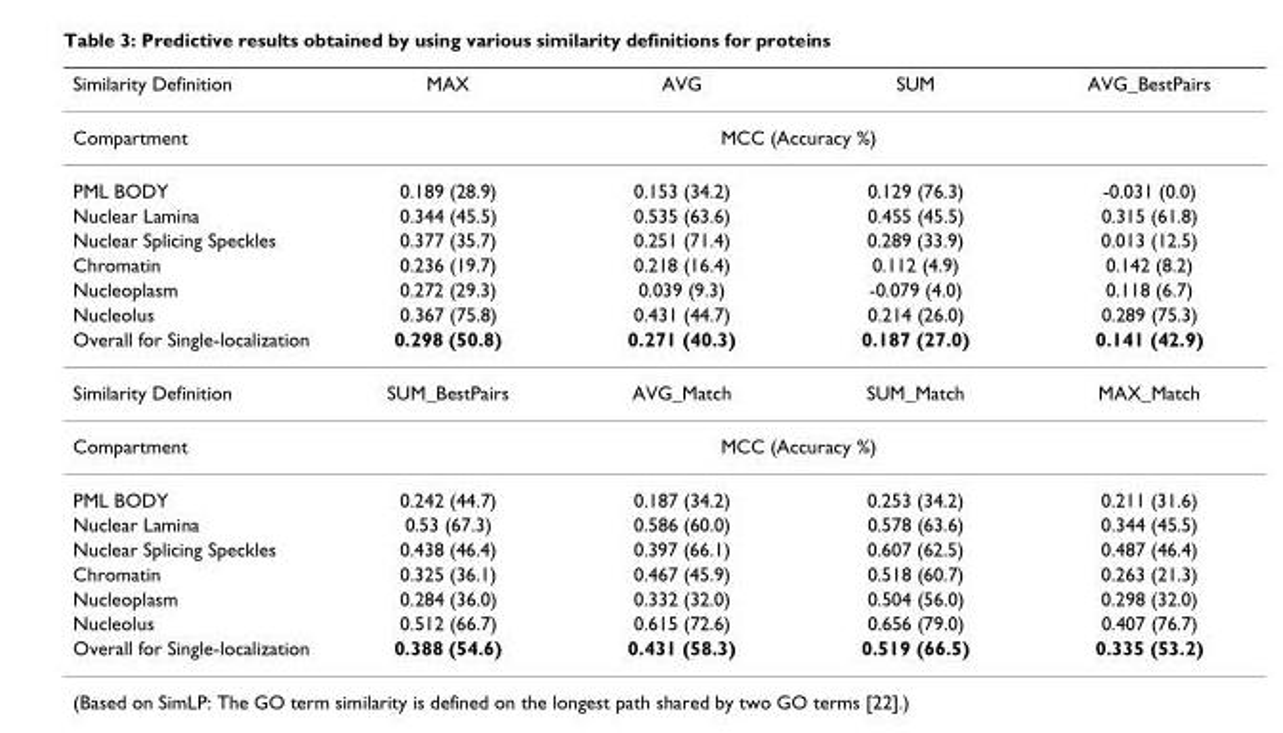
<table><thead><tr><td>Similarity Definition</td><td>MAX</td><td>AVG</td><td>SUM</td><td>AVG_BestPairs</td></tr></thead><tbody><tr><td>Compartment</td><td colspan="4">MCC (Accuracy %)</td></tr><tr><td>PML BODY</td><td>0.189 (28.9)</td><td>0.153 (34.2)</td><td>0.129 (76.3)</td><td>-0.031 (0.0)</td></tr><tr><td>Nuclear Lamina</td><td>0.344 (45.5)</td><td>0.535 (63.6)</td><td>0.455 (45.5)</td><td>0.315 (61.8)</td></tr><tr><td>Nuclear Splicing Speckles</td><td>0.377 (35.7)</td><td>0.251 (71.4)</td><td>0.289 (33.9)</td><td>0.013 (12.5)</td></tr><tr><td>Chromatin</td><td>0.236 (19.7)</td><td>0.218 (16.4)</td><td>0.112 (4.9)</td><td>0.142 (8.2)</td></tr><tr><td>Nucleoplasm</td><td>0.272 (29.3)</td><td>0.039 (9.3)</td><td>-0.079 (4.0)</td><td>0.118 (6.7)</td></tr><tr><td>Nucleolus</td><td>0.367 (75.8)</td><td>0.431 (44.7)</td><td>0.214 (26.0)</td><td>0.289 (75.3)</td></tr><tr><td>Overall for Single-localization</td><td>0.298 (50.8)</td><td>0.271 (40.3)</td><td>0.187 (27.0)</td><td>0.141 (42.9)</td></tr><tr><td>Similarity Definition</td><td>SUM_BestPairs</td><td>AVG_Match</td><td>SUM_Match</td><td>MAX_Match</td></tr><tr><td>Compartment</td><td colspan="4">MCC (Accuracy %)</td></tr><tr><td>PML BODY</td><td>0.242 (44.7)</td><td>0.187 (34.2)</td><td>0.253 (34.2)</td><td>0.211 (31.6)</td></tr><tr><td>Nuclear Lamina</td><td>0.53 (67.3)</td><td>0.586 (60.0)</td><td>0.578 (63.6)</td><td>0.344 (45.5)</td></tr><tr><td>Nuclear Splicing Speckles</td><td>0.438 (46.4)</td><td>0.397 (66.1)</td><td>0.607 (62.5)</td><td>0.487 (46.4)</td></tr><tr><td>Chromatin</td><td>0.325 (36.1)</td><td>0.467 (45.9)</td><td>0.518 (60.7)</td><td>0.263 (21.3)</td></tr><tr><td>Nucleoplasm</td><td>0.284 (36.0)</td><td>0.332 (32.0)</td><td>0.504 (56.0)</td><td>0.298 (32.0)</td></tr><tr><td>Nucleolus</td><td>0.512 (66.7)</td><td>0.615 (72.6)</td><td>0.656 (79.0)</td><td>0.407 (76.7)</td></tr><tr><td>Overall for Single-localization</td><td>0.388 (54.6)</td><td>0.431 (58.3)</td><td>0.519 (66.5)</td><td>0.335 (53.2)</td></tr></tbody></table>